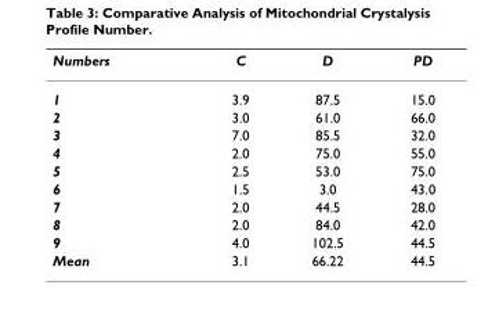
<table><thead><tr><td>Numbers</td><td>C</td><td>D</td><td>PD</td></tr></thead><tbody><tr><td>1</td><td>3.9</td><td>87.5</td><td>15.0</td></tr><tr><td>2</td><td>3.0</td><td>61.0</td><td>66.0</td></tr><tr><td>3</td><td>7.0</td><td>85.5</td><td>32.0</td></tr><tr><td>4</td><td>2.0</td><td>75.0</td><td>55.0</td></tr><tr><td>5</td><td>2.5</td><td>53.0</td><td>75.0</td></tr><tr><td>6</td><td>1.5</td><td>3.0</td><td>43.0</td></tr><tr><td>7</td><td>2.0</td><td>44.5</td><td>28.0</td></tr><tr><td>8</td><td>2.0</td><td>84.0</td><td>42.0</td></tr><tr><td>9</td><td>4.0</td><td>102.5</td><td>44.5</td></tr><tr><td>Mean</td><td>3.1</td><td>66.22</td><td>44.5</td></tr></tbody></table>